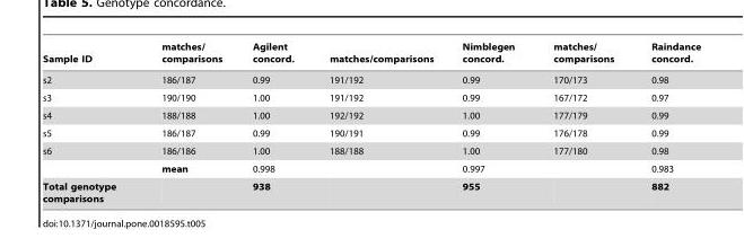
<table><thead><tr><td>Sample ID</td><td>matches/ comparisons</td><td>Agilent concord.</td><td>matches/comparisons</td><td>Nimblegen concord.</td><td>matches/ comparisons</td><td>Raindance concord.</td></tr></thead><tbody><tr><td>s2</td><td>186/187</td><td>0.99</td><td>191/192</td><td>0.99</td><td>170/173</td><td>0.98</td></tr><tr><td>s3</td><td>190/190</td><td>1.00</td><td>191/192</td><td>0.99</td><td>167/172</td><td>0.97</td></tr><tr><td>s4</td><td>188/188</td><td>1.00</td><td>192/192</td><td>1.00</td><td>177/179</td><td>0.99</td></tr><tr><td>s5</td><td>186/187</td><td>0.99</td><td>190/191</td><td>0.99</td><td>176/178</td><td>0.99</td></tr><tr><td rowspan="2">s6</td><td>186/186</td><td>1.00</td><td>188/188</td><td>1.00</td><td>177/180</td><td>0.98</td></tr><tr><td>mean</td><td>0.998</td><td></td><td>0.997</td><td></td><td>0.983</td></tr><tr><td>Total genotype comparisons</td><td></td><td>938</td><td></td><td>955</td><td></td><td>882</td></tr></tbody></table>